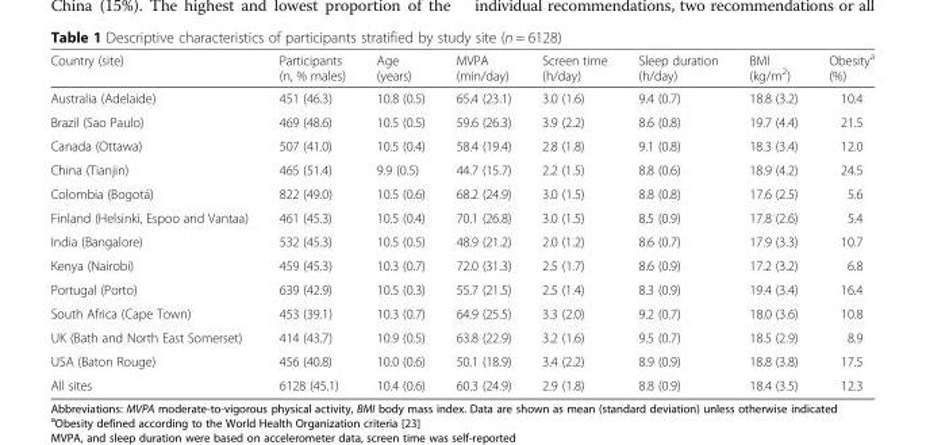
<table><thead><tr><td>Country (site)</td><td>Participants (n, % males)</td><td>Age (years)</td><td>MVPA (min/day)</td><td>Screen time (h/day)</td><td>Sleep duration (h/day)</td><td>BMI (kg/m<sup>2</sup>)</td><td>Obesity<sup>a</sup> (%)</td></tr></thead><tbody><tr><td>Australia (Adelaide)</td><td>451 (46.3)</td><td>10.8 (0.5)</td><td>65.4 (23.1)</td><td>3.0 (1.6)</td><td>9.4 (0.7)</td><td>18.8 (3.2)</td><td>10.4</td></tr><tr><td>Brazil (Sao Paulo)</td><td>469 (48.6)</td><td>10.5 (0.5)</td><td>59.6 (26.3)</td><td>3.9 (2.2)</td><td>8.6 (0.8)</td><td>19.7 (4.4)</td><td>21.5</td></tr><tr><td>Canada (Ottawa)</td><td>507 (41.0)</td><td>10.5 (0.4)</td><td>58.4 (19.4)</td><td>2.8 (1.8)</td><td>9.1 (0.8)</td><td>18.3 (3.4)</td><td>12.0</td></tr><tr><td>China (Tianjin)</td><td>465 (51.4)</td><td>9.9 (0.5)</td><td>44.7 (15.7)</td><td>2.2 (1.5)</td><td>8.8 (0.6)</td><td>18.9 (4.2)</td><td>24.5</td></tr><tr><td>Colombia (Bogotá)</td><td>822 (49.0)</td><td>10.5 (0.6)</td><td>68.2 (24.9)</td><td>3.0 (1.5)</td><td>8.8 (0.8)</td><td>17.6 (2.5)</td><td>5.6</td></tr><tr><td>Finland (Helsinki, Espoo and Vantaa)</td><td>461 (45.3)</td><td>10.5 (0.4)</td><td>70.1 (26.8)</td><td>3.0 (1.5)</td><td>8.5 (0.9)</td><td>17.8 (2.6)</td><td>5.4</td></tr><tr><td>India (Bangalore)</td><td>532 (45.3)</td><td>10.5 (0.5)</td><td>48.9 (21.2)</td><td>2.0 (1.2)</td><td>8.6 (0.7)</td><td>17.9 (3.3)</td><td>10.7</td></tr><tr><td>Kenya (Nairobi)</td><td>459 (45.3)</td><td>10.3 (0.7)</td><td>72.0 (31.3)</td><td>2.5 (1.7)</td><td>8.6 (0.9)</td><td>17.2 (3.2)</td><td>6.8</td></tr><tr><td>Portugal (Porto)</td><td>639 (42.9)</td><td>10.5 (0.3)</td><td>55.7 (21.5)</td><td>2.5 (1.4)</td><td>8.3 (0.9)</td><td>19.4 (3.4)</td><td>16.4</td></tr><tr><td>South Africa (Cape Town)</td><td>453 (39.1)</td><td>10.3 (0.7)</td><td>64.9 (25.5)</td><td>3.3 (2.0)</td><td>9.2 (0.7)</td><td>18.0 (3.6)</td><td>10.8</td></tr><tr><td>UK (Bath and North East Somerset)</td><td>414 (43.7)</td><td>10.9 (0.5)</td><td>63.8 (22.9)</td><td>3.2 (1.6)</td><td>9.5 (0.7)</td><td>18.5 (2.9)</td><td>8.9</td></tr><tr><td>USA (Baton Rouge)</td><td>456 (40.8)</td><td>10.0 (0.6)</td><td>50.1 (18.9)</td><td>3.4 (2.2)</td><td>8.9 (0.9)</td><td>18.8 (3.8)</td><td>17.5</td></tr><tr><td>All sites</td><td>6128 (45.1)</td><td>10.4 (0.6)</td><td>60.3 (24.9)</td><td>2.9 (1.8)</td><td>8.8 (0.9)</td><td>18.4 (3.5)</td><td>12.3</td></tr></tbody></table>